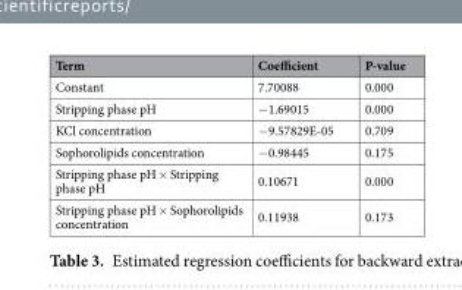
<table><thead><tr><td>Term</td><td>Coefficient</td><td>P-value</td></tr></thead><tbody><tr><td>Constant</td><td>7.70088</td><td>0.000</td></tr><tr><td>Stripping phase pH</td><td>−1.69015</td><td>0.000</td></tr><tr><td>KCl concentration</td><td>−9.57829E-05</td><td>0.709</td></tr><tr><td>Sophorolipids concentration</td><td>−0.98445</td><td>0.175</td></tr><tr><td>Stripping phase pH × Stripping phase pH</td><td>0.10671</td><td>0.000</td></tr><tr><td>Stripping phase pH × Sophorolipids concentration</td><td>0.11938</td><td>0.173</td></tr></tbody></table>